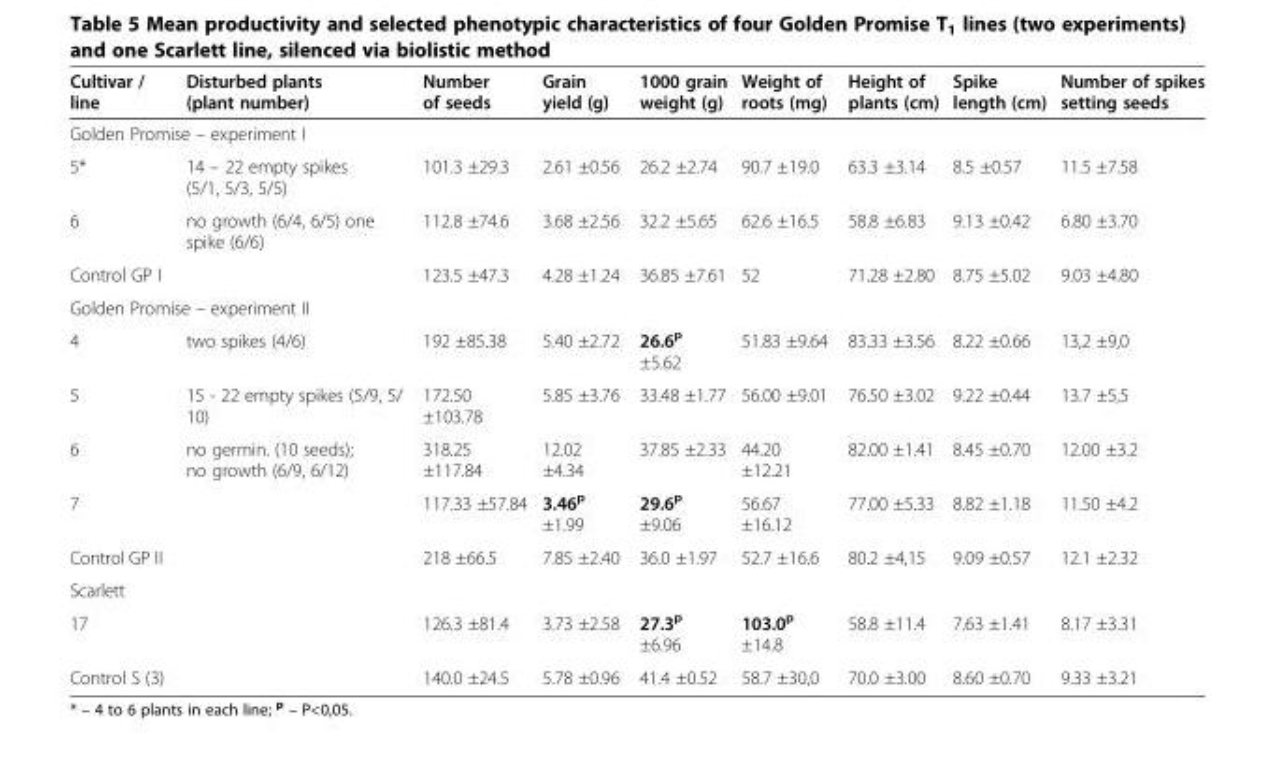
<table><thead><tr><td>Cultivar / line</td><td>Disturbed plants (plant number)</td><td>Number of seeds</td><td>Grain yield (g)</td><td>1000 grain weight (g)</td><td>Weight of roots (mg)</td><td>Height of plants (cm)</td><td>Spike length (cm)</td><td>Number of spikes setting seeds</td></tr></thead><tbody><tr><td colspan="9">Golden Promise – experiment I</td></tr><tr><td>5*</td><td>14 – 22 empty spikes (5/1, 5/3, 5/5)</td><td>101.3 ±29.3</td><td>2.61 ±0.56</td><td>26.2 ±2.74</td><td>90.7 ±19.0</td><td>63.3 ±3.14</td><td>8.5 ±0.57</td><td>11.5 ±7.58</td></tr><tr><td>6</td><td>no growth (6/4, 6/5) one spike (6/6)</td><td>112.8 ±74.6</td><td>3.68 ±2.56</td><td>32.2 ±5.65</td><td>62.6 ±16.5</td><td>58.8 ±6.83</td><td>9.13 ±0.42</td><td>6.80 ±3.70</td></tr><tr><td>Control GP I</td><td></td><td>123.5 ±47.3</td><td>4.28 ±1.24</td><td>36.85 ±7.61</td><td>52</td><td>71.28 ±2.80</td><td>8.75 ±5.02</td><td>9.03 ±4.80</td></tr><tr><td colspan="9">Golden Promise – experiment II</td></tr><tr><td>4</td><td>two spikes (4/6)</td><td>192 ±85.38</td><td>5.40 ±2.72</td><td>26.6<sup>p</sup> ±5.62</td><td>51.83 ±9.64</td><td>83.33 ±3.56</td><td>8.22 ±0.66</td><td>13,2 ±9,0</td></tr><tr><td>5</td><td>15 - 22 empty spikes (5/9, 5/ 10)</td><td>172.50 ±103.78</td><td>5.85 ±3.76</td><td>33.48 ±1.77</td><td>56.00 ±9.01</td><td>76.50 ±3.02</td><td>9.22 ±0.44</td><td>13.7 ±5,5</td></tr><tr><td>6</td><td>no germin. (10 seeds); no growth (6/9, 6/12)</td><td>318.25 ±117.84</td><td>12.02 ±4.34</td><td>37.85 ±2.33</td><td>44.20 ±12.21</td><td>82.00 ±1.41</td><td>8.45 ±0.70</td><td>12.00 ±3.2</td></tr><tr><td>7</td><td></td><td>117.33 ±57.84</td><td>3.46<sup>p</sup> ±1.99</td><td>29.6<sup>p</sup> ±9.06</td><td>56.67 ±16.12</td><td>77.00 ±5.33</td><td>8.82 ±1.18</td><td>11.50 ±4.2</td></tr><tr><td>Control GP II</td><td></td><td>218 ±66.5</td><td>7.85 ±2.40</td><td>36.0 ±1.97</td><td>52.7 ±16.6</td><td>80.2 ±4,15</td><td>9.09 ±0.57</td><td>12.1 ±2.32</td></tr><tr><td colspan="9">Scarlett</td></tr><tr><td>17</td><td></td><td>126.3 ±81.4</td><td>3.73 ±2.58</td><td>27.3<sup>p</sup> ±6.96</td><td>103.0<sup>p</sup> ±14.8</td><td>58.8 ±11.4</td><td>7.63 ±1.41</td><td>8.17 ±3.31</td></tr><tr><td>Control S (3)</td><td></td><td>140.0 ±24.5</td><td>5.78 ±0.96</td><td>41.4 ±0.52</td><td>58.7 ±30,0</td><td>70.0 ±3.00</td><td>8.60 ±0.70</td><td>9.33 ±3.21</td></tr></tbody></table>